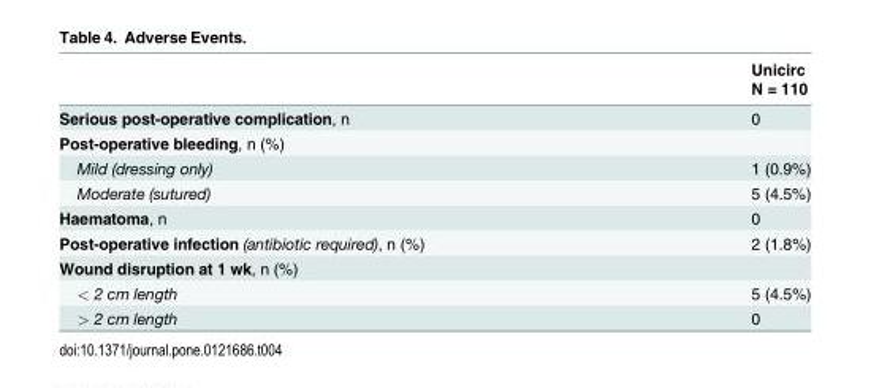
<table><thead><tr><td rowspan="2"></td><td rowspan="2">Unicirc N = 110</td></tr><tr></tr></thead><tbody><tr><td>Serious post-operative complication, n</td><td>0</td></tr><tr><td colspan="2">Post-operative bleeding, n (%)</td></tr><tr><td>Mild (dressing only)</td><td>1 (0.9%)</td></tr><tr><td>Moderate (sutured)</td><td>5 (4.5%)</td></tr><tr><td>Haematoma, n</td><td>0</td></tr><tr><td>Post-operative infection (antibiotic required), n (%)</td><td>2 (1.8%)</td></tr><tr><td colspan="2">Wound disruption at 1 wk, n (%)</td></tr><tr><td>&lt; 2 cm length</td><td>5 (4.5%)</td></tr><tr><td>&gt; 2 cm length</td><td>0</td></tr></tbody></table>